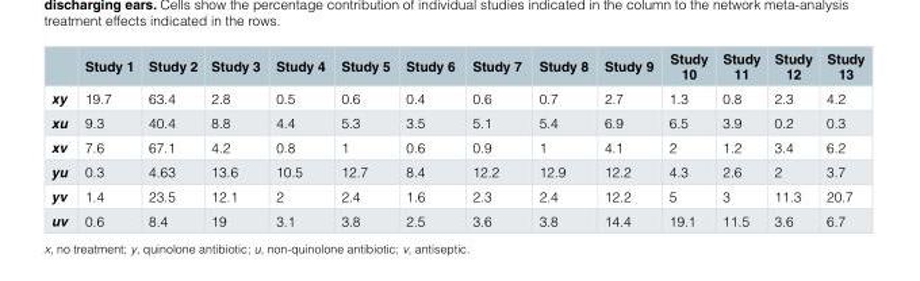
<table><thead><tr><td></td><td>Study 1</td><td>Study 2</td><td>Study 3</td><td>Study 4</td><td>Study 5</td><td>Study 6</td><td>Study 7</td><td>Study 8</td><td>Study 9</td><td>Study 10</td><td>Study 11</td><td>Study 12</td><td>Study 13</td></tr></thead><tbody><tr><td>xy</td><td>19.7</td><td>63.4</td><td>2.8</td><td>0.5</td><td>0.6</td><td>0.4</td><td>0.6</td><td>0.7</td><td>2.7</td><td>1.3</td><td>0.8</td><td>2.3</td><td>4.2</td></tr><tr><td>xu</td><td>9.3</td><td>40.4</td><td>8.8</td><td>4.4</td><td>5.3</td><td>3.5</td><td>5.1</td><td>5.4</td><td>6.9</td><td>6.5</td><td>3.9</td><td>0.2</td><td>0.3</td></tr><tr><td>xv</td><td>7.6</td><td>67.1</td><td>4.2</td><td>0.8</td><td>1</td><td>0.6</td><td>0.9</td><td>1</td><td>4.1</td><td>2</td><td>1.2</td><td>3.4</td><td>6.2</td></tr><tr><td>yu</td><td>0.3</td><td>4.63</td><td>13.6</td><td>10.5</td><td>12.7</td><td>8.4</td><td>12.2</td><td>12.9</td><td>12.2</td><td>4.3</td><td>2.6</td><td>2</td><td>3.7</td></tr><tr><td>yv</td><td>1.4</td><td>23.5</td><td>12.1</td><td>2</td><td>2.4</td><td>1.6</td><td>2.3</td><td>2.4</td><td>12.2</td><td>5</td><td>3</td><td>11.3</td><td>20.7</td></tr><tr><td>uv</td><td>0.6</td><td>8.4</td><td>19</td><td>3.1</td><td>3.8</td><td>2.5</td><td>3.6</td><td>3.8</td><td>14.4</td><td>19.1</td><td>11.5</td><td>3.6</td><td>6.7</td></tr></tbody></table>